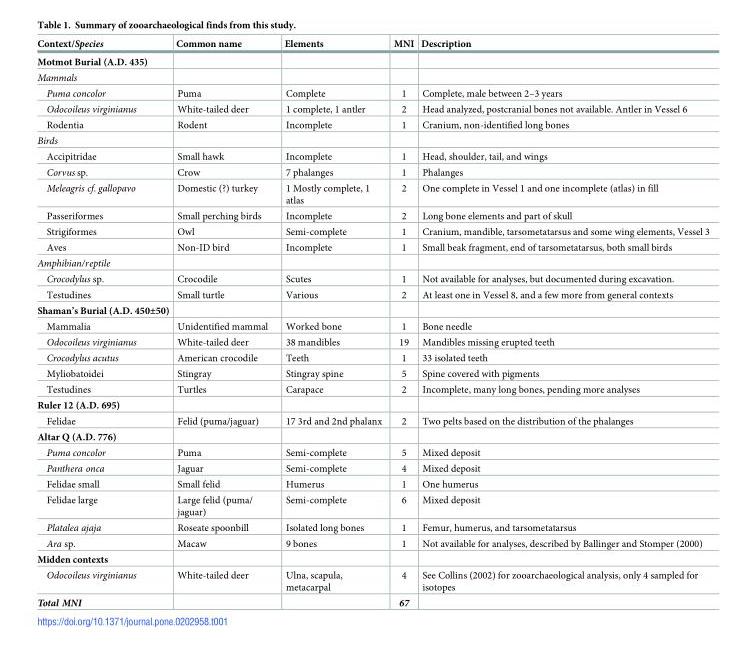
<table><thead><tr><td>Context/Species</td><td>Common name</td><td>Elements</td><td>MNI</td><td>Description</td></tr></thead><tbody><tr><td colspan="5">Motmot Burial (A.D. 435)</td></tr><tr><td colspan="5">Mammals</td></tr><tr><td>Puma concolor</td><td>Puma</td><td>Complete</td><td>1</td><td>Complete, male between 2–3 years</td></tr><tr><td>Odocoileus virginianus</td><td>White-tailed deer</td><td>1 complete, 1 antler</td><td>2</td><td>Head analyzed, postcranial bones not available. Antler in Vessel 6</td></tr><tr><td>Rodentia</td><td>Rodent</td><td>Incomplete</td><td>1</td><td>Cranium, non-identified long bones</td></tr><tr><td colspan="5">Birds</td></tr><tr><td>Accipitridae</td><td>Small hawk</td><td>Incomplete</td><td>1</td><td>Head, shoulder, tail, and wings</td></tr><tr><td>Corvus sp.</td><td>Crow</td><td>7 phalanges</td><td>1</td><td>Phalanges</td></tr><tr><td>Meleagris cf. gallopavo</td><td>Domestic (?) turkey</td><td>1 Mostly complete, 1 atlas</td><td>2</td><td>One complete in Vessel 1 and one incomplete (atlas) in fill</td></tr><tr><td>Passeriformes</td><td>Small perching birds</td><td>Incomplete</td><td>2</td><td>Long bone elements and part of skull</td></tr><tr><td>Strigiformes</td><td>Owl</td><td>Semi-complete</td><td>1</td><td>Cranium, mandible, tarsometatarsus and some wing elements, Vessel 3</td></tr><tr><td>Aves</td><td>Non-ID bird</td><td>Incomplete</td><td>1</td><td>Small beak fragment, end of tarsometatarsus, both small birds</td></tr><tr><td colspan="5">Amphibian/reptile</td></tr><tr><td>Crocodylus sp.</td><td>Crocodile</td><td>Scutes</td><td>1</td><td>Not available for analyses, but documented during excavation.</td></tr><tr><td>Testudines</td><td>Small turtle</td><td>Various</td><td>2</td><td>At least one in Vessel 8, and a few more from general contexts</td></tr><tr><td colspan="5">Shaman’s Burial (A.D. 450±50)</td></tr><tr><td>Mammalia</td><td>Unidentified mammal</td><td>Worked bone</td><td>1</td><td>Bone needle</td></tr><tr><td>Odocoileus virginianus</td><td>White-tailed deer</td><td>38 mandibles</td><td>19</td><td>Mandibles missing erupted teeth</td></tr><tr><td>Crocodylus acutus</td><td>American crocodile</td><td>Teeth</td><td>1</td><td>33 isolated teeth</td></tr><tr><td>Myliobatoidei</td><td>Stingray</td><td>Stingray spine</td><td>5</td><td>Spine covered with pigments</td></tr><tr><td>Testudines</td><td>Turtles</td><td>Carapace</td><td>2</td><td>Incomplete, many long bones, pending more analyses</td></tr><tr><td colspan="5">Ruler 12 (A.D. 695)</td></tr><tr><td>Felidae</td><td>Felid (puma/jaguar)</td><td>17 3rd and 2nd phalanx</td><td>2</td><td>Two pelts based on the distribution of the phalanges</td></tr><tr><td colspan="5">Altar Q (A.D. 776)</td></tr><tr><td>Puma concolor</td><td>Puma</td><td>Semi-complete</td><td>5</td><td>Mixed deposit</td></tr><tr><td>Panthera onca</td><td>Jaguar</td><td>Semi-complete</td><td>4</td><td>Mixed deposit</td></tr><tr><td>Felidae small</td><td>Small felid</td><td>Humerus</td><td>1</td><td>One humerus</td></tr><tr><td>Felidae large</td><td>Large felid (puma/ jaguar)</td><td>Semi-complete</td><td>6</td><td>Mixed deposit</td></tr><tr><td>Platalea ajaja</td><td>Roseate spoonbill</td><td>Isolated long bones</td><td>1</td><td>Femur, humerus, and tarsometatarsus</td></tr><tr><td>Ara sp.</td><td>Macaw</td><td>9 bones</td><td>1</td><td>Not available for analyses, described by Ballinger and Stomper (2000)</td></tr><tr><td colspan="5">Midden contexts</td></tr><tr><td>Odocoileus virginianus</td><td>White-tailed deer</td><td>Ulna, scapula, metacarpal</td><td>4</td><td>See Collins (2002) for zooarchaeological analysis, only 4 sampled for isotopes</td></tr><tr><td>Total MNI</td><td></td><td></td><td>67</td><td></td></tr></tbody></table>